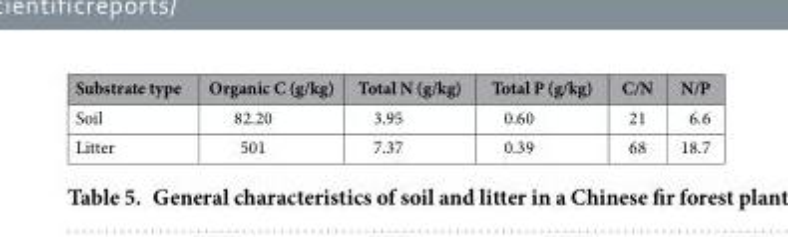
<table><thead><tr><td>Substrate type</td><td>Organic C (g/kg)</td><td>Total N (g/kg)</td><td>Total P (g/kg)</td><td>C/N</td><td>N/P</td></tr></thead><tbody><tr><td>Soil</td><td>82.20</td><td>3.95</td><td>0.60</td><td>21</td><td>6.6</td></tr><tr><td>Litter</td><td>501</td><td>7.37</td><td>0.39</td><td>68</td><td>18.7</td></tr></tbody></table>